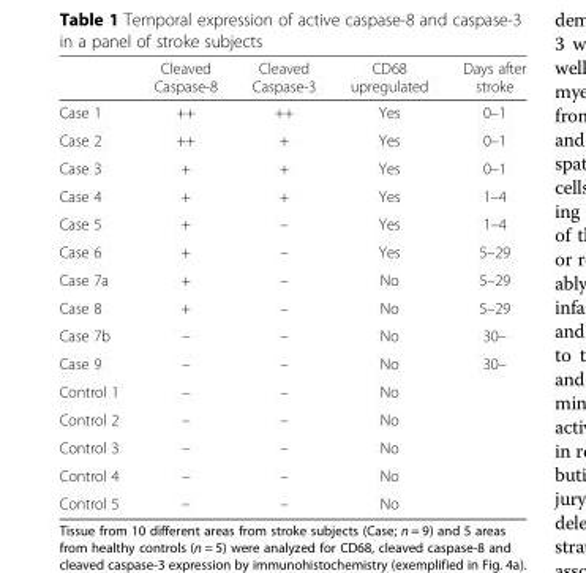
<table><thead><tr><td></td><td>Cleaved Caspase-8</td><td>Cleaved Caspase-3</td><td>CD68 upregulated</td><td>Days after stroke</td></tr></thead><tbody><tr><td>Case 1</td><td>++</td><td>++</td><td>Yes</td><td>0–1</td></tr><tr><td>Case 2</td><td>++</td><td>+</td><td>Yes</td><td>0–1</td></tr><tr><td>Case 3</td><td>+</td><td>+</td><td>Yes</td><td>0–1</td></tr><tr><td>Case 4</td><td>+</td><td>+</td><td>Yes</td><td>1–4</td></tr><tr><td>Case 5</td><td>+</td><td>–</td><td>Yes</td><td>1–4</td></tr><tr><td>Case 6</td><td>+</td><td>–</td><td>Yes</td><td>5–29</td></tr><tr><td>Case 7a</td><td>+</td><td>–</td><td>No</td><td>5–29</td></tr><tr><td>Case 8</td><td>+</td><td>–</td><td>No</td><td>5–29</td></tr><tr><td>Case 7b</td><td>–</td><td>–</td><td>No</td><td>30–</td></tr><tr><td>Case 9</td><td>–</td><td>–</td><td>No</td><td>30–</td></tr><tr><td>Control 1</td><td>–</td><td>–</td><td>No</td><td rowspan="2"></td></tr><tr><td>Control 2</td><td>–</td><td>–</td><td>No</td></tr><tr><td>Control 3</td><td>–</td><td>–</td><td>No</td><td rowspan="3"></td></tr><tr><td>Control 4</td><td>–</td><td>–</td><td>No</td></tr><tr><td>Control 5</td><td>–</td><td>–</td><td>No</td></tr></tbody></table>